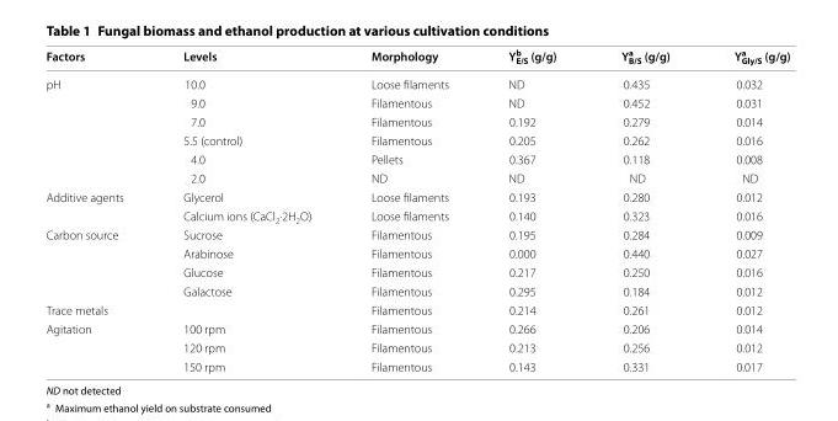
<table><thead><tr><td>Factors</td><td>Levels</td><td>Morphology</td><td>Yb E/S (g/g)</td><td>Ya B/S (g/g)</td><td>Ya Gly/S (g/g)</td></tr></thead><tbody><tr><td rowspan="6">pH</td><td>10.0</td><td>Loose filaments</td><td>ND</td><td>0.435</td><td>0.032</td></tr><tr><td>9.0</td><td>Filamentous</td><td>ND</td><td>0.452</td><td>0.031</td></tr><tr><td>7.0</td><td>Filamentous</td><td>0.192</td><td>0.279</td><td>0.014</td></tr><tr><td>5.5 (control)</td><td>Filamentous</td><td>0.205</td><td>0.262</td><td>0.016</td></tr><tr><td>4.0</td><td>Pellets</td><td>0.367</td><td>0.118</td><td>0.008</td></tr><tr><td>2.0</td><td>ND</td><td>ND</td><td>ND</td><td>ND</td></tr><tr><td rowspan="2">Additive agents</td><td>Glycerol</td><td>Loose filaments</td><td>0.193</td><td>0.280</td><td>0.012</td></tr><tr><td>Calcium ions (CaCl<sub>2</sub>∙2H<sub>2</sub>O)</td><td>Loose filaments</td><td>0.140</td><td>0.323</td><td>0.016</td></tr><tr><td rowspan="4">Carbon source</td><td>Sucrose</td><td>Filamentous</td><td>0.195</td><td>0.284</td><td>0.009</td></tr><tr><td>Arabinose</td><td>Filamentous</td><td>0.000</td><td>0.440</td><td>0.027</td></tr><tr><td>Glucose</td><td>Filamentous</td><td>0.217</td><td>0.250</td><td>0.016</td></tr><tr><td>Galactose</td><td>Filamentous</td><td>0.295</td><td>0.184</td><td>0.012</td></tr><tr><td>Trace metals</td><td></td><td>Filamentous</td><td>0.214</td><td>0.261</td><td>0.012</td></tr><tr><td rowspan="3">Agitation</td><td>100 rpm</td><td>Filamentous</td><td>0.266</td><td>0.206</td><td>0.014</td></tr><tr><td>120 rpm</td><td>Filamentous</td><td>0.213</td><td>0.256</td><td>0.012</td></tr><tr><td>150 rpm</td><td>Filamentous</td><td>0.143</td><td>0.331</td><td>0.017</td></tr></tbody></table>